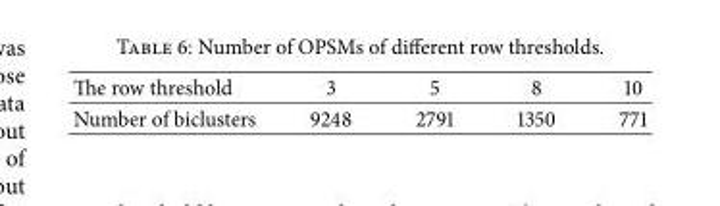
<table><tbody><tr><td>The row threshold</td><td>3</td><td>5</td><td>8</td><td>10</td></tr><tr><td>Number of biclusters</td><td>9248</td><td>2791</td><td>1350</td><td>771</td></tr></tbody></table>